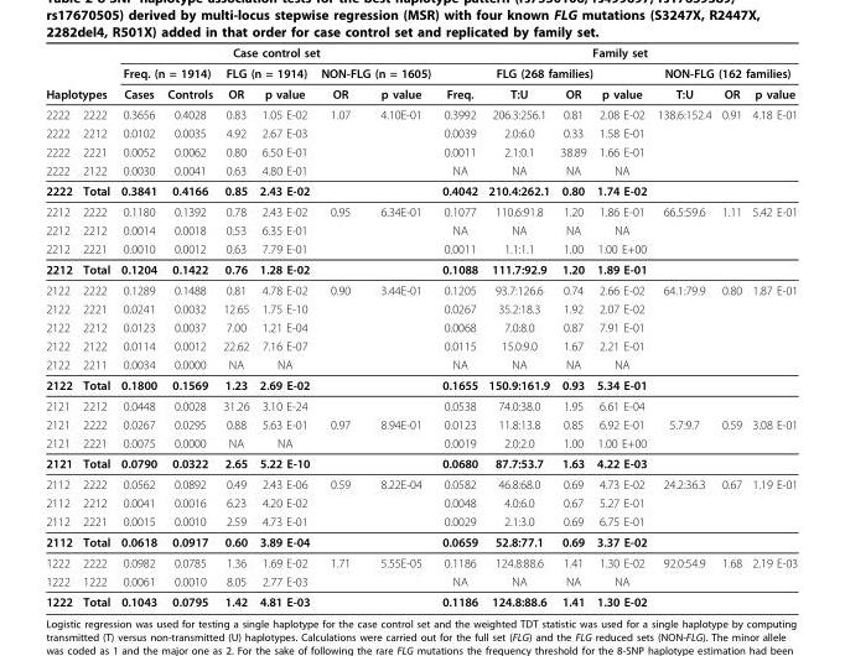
<table><thead><tr><td rowspan="2"></td><td rowspan="2"></td><td colspan="6">Case control set</td><td colspan="7">Family set</td></tr><tr><td colspan="2">Freq. (n = 1914)</td><td colspan="2">FLG (n = 1914)</td><td colspan="2">NON-FLG (n = 1605)</td><td colspan="4">FLG (268 families)</td><td colspan="3">NON-FLG (162 families)</td></tr><tr><td colspan="2">Haplotypes</td><td>Cases</td><td>Controls</td><td>OR</td><td>p value</td><td>OR</td><td>p value</td><td>Freq.</td><td>T:U</td><td>OR</td><td>p value</td><td>T:U</td><td>OR</td><td>p value</td></tr></thead><tbody><tr><td>2222</td><td>2222</td><td>0.3656</td><td>0.4028</td><td>0.83</td><td>1.05 E-02</td><td>1.07</td><td>4.10E-01</td><td>0.3992</td><td>206.3:256.1</td><td>0.81</td><td>2.08 E-02</td><td>138.6:152.4</td><td>0.91</td><td>4.18 E-01</td></tr><tr><td>2222</td><td>2212</td><td>0.0102</td><td>0.0035</td><td>4.92</td><td>2.67 E-03</td><td></td><td></td><td>0.0039</td><td>2.0:6.0</td><td>0.33</td><td>1.58 E-01</td><td></td><td></td><td></td></tr><tr><td>2222</td><td>2221</td><td>0.0052</td><td>0.0062</td><td>0.80</td><td>6.50 E-01</td><td></td><td></td><td>0.0011</td><td>2.1:0.1</td><td>38.89</td><td>1.66 E-01</td><td></td><td></td><td></td></tr><tr><td>2222</td><td>2122</td><td>0.0030</td><td>0.0041</td><td>0.63</td><td>4.80 E-01</td><td></td><td></td><td>NA</td><td>NA</td><td>NA</td><td>NA</td><td></td><td></td><td></td></tr><tr><td>2222</td><td>Total</td><td>0.3841</td><td>0.4166</td><td>0.85</td><td>2.43 E-02</td><td></td><td></td><td>0.4042</td><td>210.4:262.1</td><td>0.80</td><td>1.74 E-02</td><td></td><td></td><td></td></tr><tr><td>2212</td><td>2222</td><td>0.1180</td><td>0.1392</td><td>0.78</td><td>2.43 E-02</td><td>0.95</td><td>6.34E-01</td><td>0.1077</td><td>110.6:91.8</td><td>1.20</td><td>1.86 E-01</td><td>66.5:59.6</td><td>1.11</td><td>5.42 E-01</td></tr><tr><td>2212</td><td>2212</td><td>0.0014</td><td>0.0018</td><td>0.53</td><td>6.35 E-01</td><td></td><td></td><td>NA</td><td>NA</td><td>NA</td><td>NA</td><td></td><td></td><td></td></tr><tr><td>2212</td><td>2221</td><td>0.0010</td><td>0.0012</td><td>0.63</td><td>7.79 E-01</td><td></td><td></td><td>0.0011</td><td>1.1:1.1</td><td>1.00</td><td>1.00 E+00</td><td></td><td></td><td></td></tr><tr><td>2212</td><td>Total</td><td>0.1204</td><td>0.1422</td><td>0.76</td><td>1.28 E-02</td><td></td><td></td><td>0.1088</td><td>111.7:92.9</td><td>1.20</td><td>1.89 E-01</td><td></td><td></td><td></td></tr><tr><td>2122</td><td>2222</td><td>0.1289</td><td>0.1488</td><td>0.81</td><td>4.78 E-02</td><td>0.90</td><td>3.44E-01</td><td>0.1205</td><td>93.7:126.6</td><td>0.74</td><td>2.66 E-02</td><td>64.1:79.9</td><td>0.80</td><td>1.87 E-01</td></tr><tr><td>2122</td><td>2221</td><td>0.0241</td><td>0.0032</td><td>12.65</td><td>1.75 E-10</td><td></td><td></td><td>0.0267</td><td>35.2:18.3</td><td>1.92</td><td>2.07 E-02</td><td></td><td></td><td></td></tr><tr><td>2122</td><td>2212</td><td>0.0123</td><td>0.0037</td><td>7.00</td><td>1.21 E-04</td><td></td><td></td><td>0.0068</td><td>7.0:8.0</td><td>0.87</td><td>7.91 E-01</td><td></td><td></td><td></td></tr><tr><td>2122</td><td>2122</td><td>0.0114</td><td>0.0012</td><td>22.62</td><td>7.16 E-07</td><td></td><td></td><td>0.0115</td><td>15.0:9.0</td><td>1.67</td><td>2.21 E-01</td><td></td><td></td><td></td></tr><tr><td>2122</td><td>2211</td><td>0.0034</td><td>0.0000</td><td>NA</td><td>NA</td><td></td><td></td><td>NA</td><td>NA</td><td>NA</td><td>NA</td><td></td><td></td><td></td></tr><tr><td>2122</td><td>Total</td><td>0.1800</td><td>0.1569</td><td>1.23</td><td>2.69 E-02</td><td></td><td></td><td>0.1655</td><td>150.9:161.9</td><td>0.93</td><td>5.34 E-01</td><td></td><td></td><td></td></tr><tr><td>2121</td><td>2212</td><td>0.0448</td><td>0.0028</td><td>31.26</td><td>3.10 E-24</td><td></td><td></td><td>0.0538</td><td>74.0:38.0</td><td>1.95</td><td>6.61 E-04</td><td></td><td></td><td></td></tr><tr><td>2121</td><td>2222</td><td>0.0267</td><td>0.0295</td><td>0.88</td><td>5.63 E-01</td><td>0.97</td><td>8.94E-01</td><td>0.0123</td><td>11.8:13.8</td><td>0.85</td><td>6.92 E-01</td><td>5.7:9.7</td><td>0.59</td><td>3.08 E-01</td></tr><tr><td>2121</td><td>2221</td><td>0.0075</td><td>0.0000</td><td>NA</td><td>NA</td><td></td><td></td><td>0.0019</td><td>2.0:2.0</td><td>1.00</td><td>1.00 E+00</td><td></td><td></td><td></td></tr><tr><td>2121</td><td>Total</td><td>0.0790</td><td>0.0322</td><td>2.65</td><td>5.22 E-10</td><td></td><td></td><td>0.0680</td><td>87.7:53.7</td><td>1.63</td><td>4.22 E-03</td><td></td><td></td><td></td></tr><tr><td>2112</td><td>2222</td><td>0.0562</td><td>0.0892</td><td>0.49</td><td>2.43 E-06</td><td>0.59</td><td>8.22E-04</td><td>0.0582</td><td>46.8:68.0</td><td>0.69</td><td>4.73 E-02</td><td>24.2:36.3</td><td>0.67</td><td>1.19 E-01</td></tr><tr><td>2112</td><td>2212</td><td>0.0041</td><td>0.0016</td><td>6.23</td><td>4.20 E-02</td><td></td><td></td><td>0.0048</td><td>4.0:6.0</td><td>0.67</td><td>5.27 E-01</td><td></td><td></td><td></td></tr><tr><td>2112</td><td>2221</td><td>0.0015</td><td>0.0010</td><td>2.59</td><td>4.73 E-01</td><td></td><td></td><td>0.0029</td><td>2.1:3.0</td><td>0.69</td><td>6.75 E-01</td><td></td><td></td><td></td></tr><tr><td>2112</td><td>Total</td><td>0.0618</td><td>0.0917</td><td>0.60</td><td>3.89 E-04</td><td></td><td></td><td>0.0659</td><td>52.8:77.1</td><td>0.69</td><td>3.37 E-02</td><td></td><td></td><td></td></tr><tr><td>1222</td><td>2222</td><td>0.0982</td><td>0.0785</td><td>1.36</td><td>1.69 E-02</td><td>1.71</td><td>5.55E-05</td><td>0.1186</td><td>124.8:88.6</td><td>1.41</td><td>1.30 E-02</td><td>92.0:54.9</td><td>1.68</td><td>2.19 E-03</td></tr><tr><td>1222</td><td>1222</td><td>0.0061</td><td>0.0010</td><td>8.05</td><td>2.77 E-03</td><td></td><td></td><td>NA</td><td>NA</td><td>NA</td><td>NA</td><td></td><td></td><td></td></tr><tr><td>1222</td><td>Total</td><td>0.1043</td><td>0.0795</td><td>1.42</td><td>4.81 E-03</td><td></td><td></td><td>0.1186</td><td>124.8:88.6</td><td>1.41</td><td>1.30 E-02</td><td></td><td></td><td></td></tr></tbody></table>